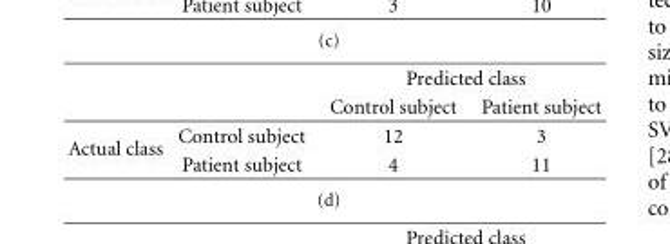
<table><thead><tr><td rowspan="2"></td><td rowspan="2"></td><td colspan="2">Predicted class</td></tr><tr><td>Control subject</td><td>Patient subject</td></tr></thead><tbody><tr><td rowspan="2">Actual class</td><td>Control subject</td><td>12</td><td>3</td></tr><tr><td>Patient subject</td><td>4</td><td>11</td></tr></tbody></table>